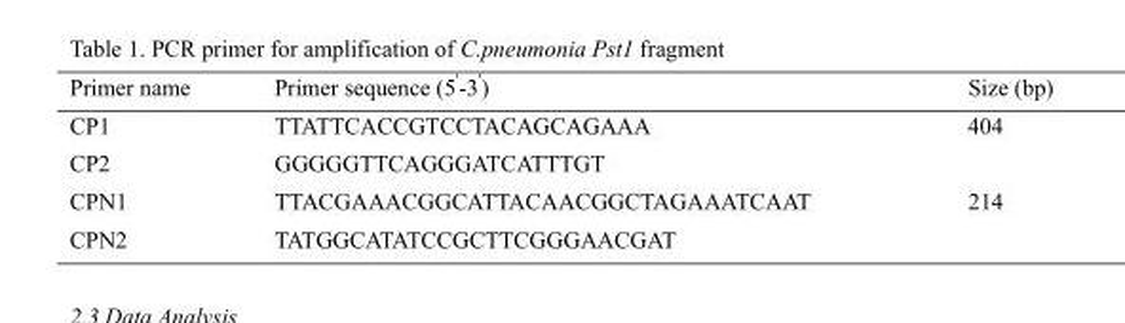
<table><thead><tr><td>Primer name</td><td>Primer sequence (5&#x27;-3&#x27;)</td><td>Size (bp)</td></tr></thead><tbody><tr><td>CP1</td><td>TTATTCACCGTCCTACAGCAGAAA</td><td rowspan="2">404</td></tr><tr><td>CP2</td><td>GGGGGTTCAGGGATCATTTGT</td></tr><tr><td>CPN1</td><td>TTACGAAACGGCATTACAACGGCTAGAAATCAAT</td><td rowspan="2">214</td></tr><tr><td>CPN2</td><td>TATGGCATATCCGCTTCGGGAACGAT</td></tr></tbody></table>